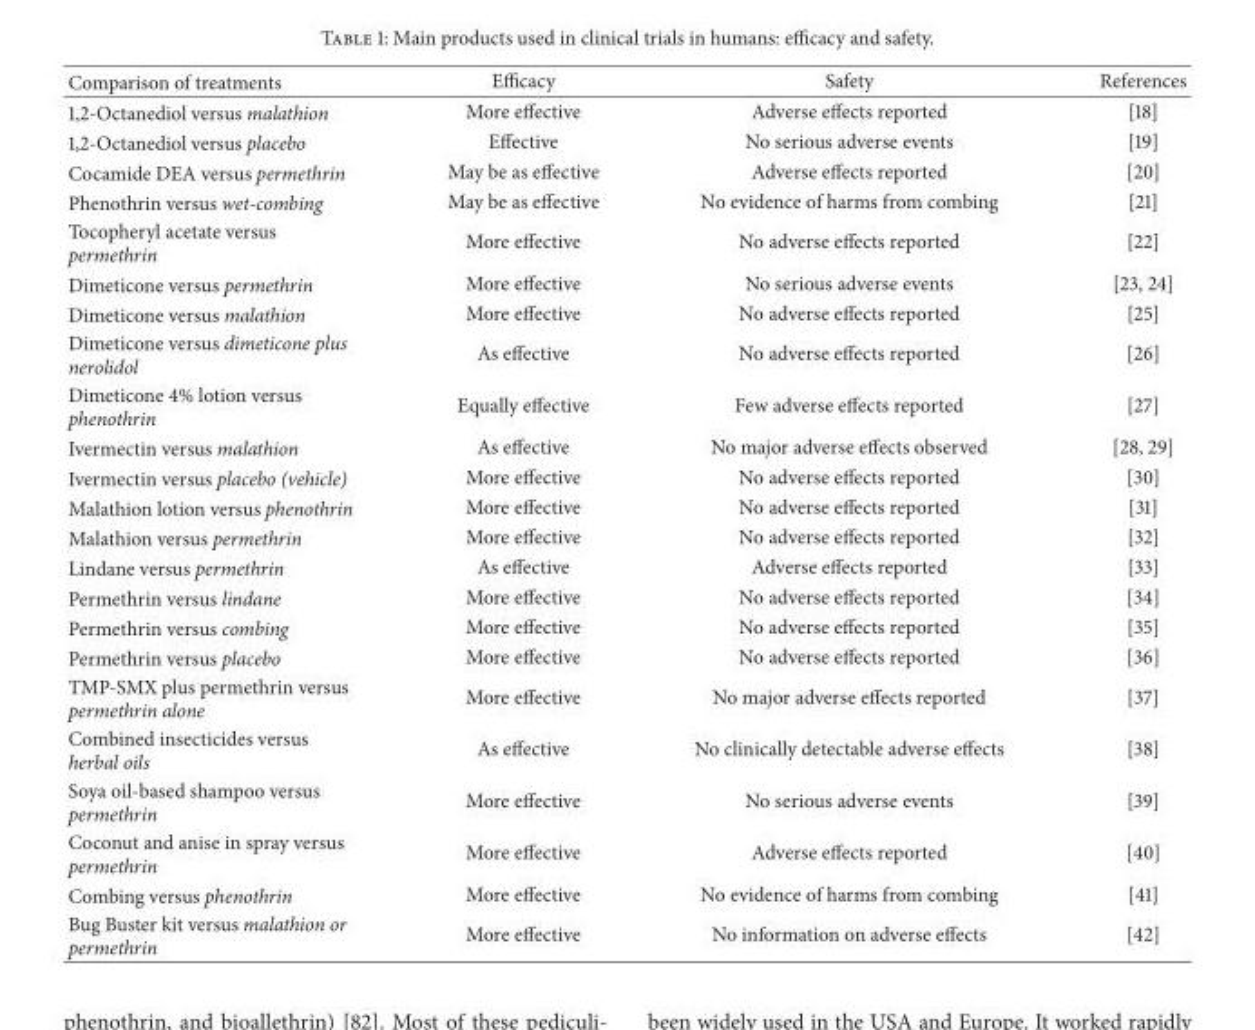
<table><thead><tr><td>Comparison of treatments</td><td>Efficacy</td><td>Safety</td><td>References</td></tr></thead><tbody><tr><td>1,2-Octanediol versus malathion</td><td>More effective</td><td>Adverse effects reported</td><td>[18]</td></tr><tr><td>1,2-Octanediol versus placebo</td><td>Effective</td><td>No serious adverse events</td><td>[19]</td></tr><tr><td>Cocamide DEA versus permethrin</td><td>May be as effective</td><td>Adverse effects reported</td><td>[20]</td></tr><tr><td>Phenothrin versus wet-combing</td><td>May be as effective</td><td>No evidence of harms from combing</td><td>[21]</td></tr><tr><td>Tocopheryl acetate versus permethrin</td><td>More effective</td><td>No adverse effects reported</td><td>[22]</td></tr><tr><td>Dimeticone versus permethrin</td><td>More effective</td><td>No serious adverse events</td><td>[23, 24]</td></tr><tr><td>Dimeticone versus malathion</td><td>More effective</td><td>No adverse effects reported</td><td>[25]</td></tr><tr><td>Dimeticone versus dimeticone plus nerolidol</td><td>As effective</td><td>No adverse effects reported</td><td>[26]</td></tr><tr><td>Dimeticone 4% lotion versus phenothrin</td><td>Equally effective</td><td>Few adverse effects reported</td><td>[27]</td></tr><tr><td>Ivermectin versus malathion</td><td>As effective</td><td>No major adverse effects observed</td><td>[28, 29]</td></tr><tr><td>Ivermectin versus placebo (vehicle)</td><td>More effective</td><td>No adverse effects reported</td><td>[30]</td></tr><tr><td>Malathion lotion versus phenothrin</td><td>More effective</td><td>No adverse effects reported</td><td>[31]</td></tr><tr><td>Malathion versus permethrin</td><td>More effective</td><td>No adverse effects reported</td><td>[32]</td></tr><tr><td>Lindane versus permethrin</td><td>As effective</td><td>Adverse effects reported</td><td>[33]</td></tr><tr><td>Permethrin versus lindane</td><td>More effective</td><td>No adverse effects reported</td><td>[34]</td></tr><tr><td>Permethrin versus combing</td><td>More effective</td><td>No adverse effects reported</td><td>[35]</td></tr><tr><td>Permethrin versus placebo</td><td>More effective</td><td>No adverse effects reported</td><td>[36]</td></tr><tr><td>TMP-SMX plus permethrin versus permethrin alone</td><td>More effective</td><td>No major adverse effects reported</td><td>[37]</td></tr><tr><td>Combined insecticides versus herbal oils</td><td>As effective</td><td>No clinically detectable adverse effects</td><td>[38]</td></tr><tr><td>Soya oil-based shampoo versus permethrin</td><td>More effective</td><td>No serious adverse events</td><td>[39]</td></tr><tr><td>Coconut and anise in spray versus permethrin</td><td>More effective</td><td>Adverse effects reported</td><td>[40]</td></tr><tr><td>Combing versus phenothrin</td><td>More effective</td><td>No evidence of harms from combing</td><td>[41]</td></tr><tr><td>Bug Buster kit versus malathion or permethrin</td><td>More effective</td><td>No information on adverse effects</td><td>[42]</td></tr></tbody></table>